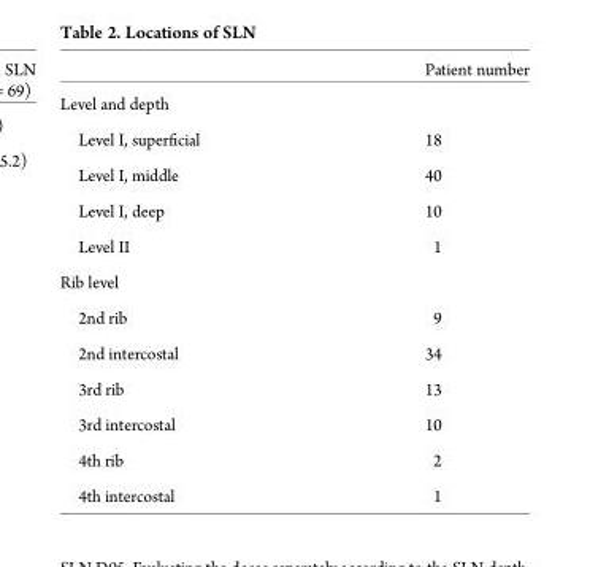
<table><thead><tr><td></td><td>Patient number</td></tr></thead><tbody><tr><td colspan="2">Level and depth</td></tr><tr><td>Level I, superficial</td><td>18</td></tr><tr><td>Level I, middle</td><td>40</td></tr><tr><td>Level I, deep</td><td>10</td></tr><tr><td>Level II</td><td>1</td></tr><tr><td colspan="2">Rib level</td></tr><tr><td>2nd rib</td><td>9</td></tr><tr><td>2nd intercostal</td><td>34</td></tr><tr><td>3rd rib</td><td>13</td></tr><tr><td>3rd intercostal</td><td>10</td></tr><tr><td>4th rib</td><td>2</td></tr><tr><td>4th intercostal</td><td>1</td></tr></tbody></table>